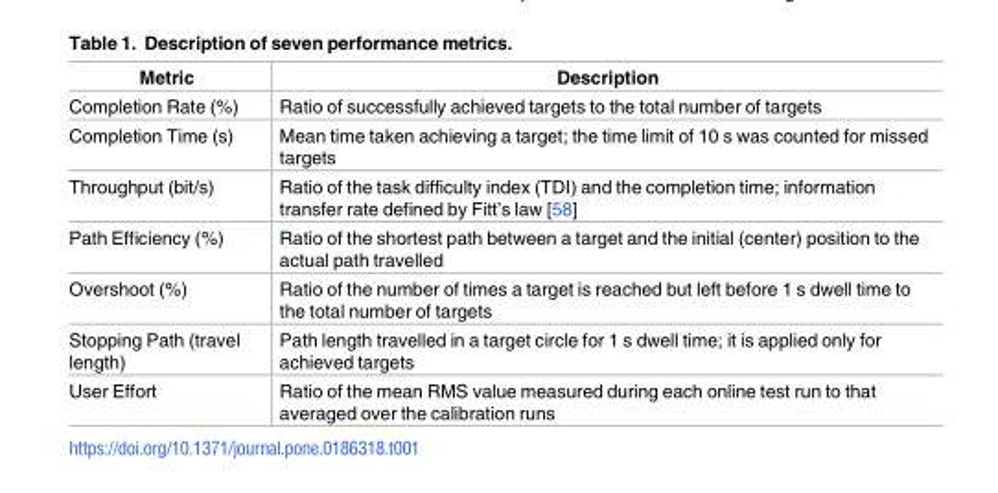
<table><thead><tr><td>Metric</td><td>Description</td></tr></thead><tbody><tr><td>Completion Rate (%)</td><td>Ratio of successfully achieved targets to the total number of targets</td></tr><tr><td>Completion Time (s)</td><td>Mean time taken achieving a target; the time limit of 10 s was counted for missed targets</td></tr><tr><td>Throughput (bit/s)</td><td>Ratio of the task difficulty index (TDI) and the completion time; information transfer rate defined by Fitt’s law [58]</td></tr><tr><td>Path Efficiency (%)</td><td>Ratio of the shortest path between a target and the initial (center) position to the actual path travelled</td></tr><tr><td>Overshoot (%)</td><td>Ratio of the number of times a target is reached but left before 1 s dwell time to the total number of targets</td></tr><tr><td>Stopping Path (travel length)</td><td>Path length travelled in a target circle for 1 s dwell time; it is applied only for achieved targets</td></tr><tr><td>User Effort</td><td>Ratio of the mean RMS value measured during each online test run to that averaged over the calibration runs</td></tr></tbody></table>